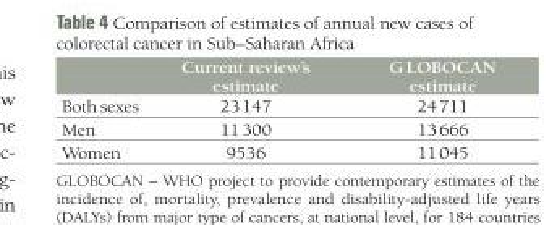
<table><thead><tr><td></td><td>Current review’s estimate</td><td>G LOBOCAN estimate</td></tr></thead><tbody><tr><td>Both sexes</td><td>23 147</td><td>24 711</td></tr><tr><td>Men</td><td>11 300</td><td>13 666</td></tr><tr><td>Women</td><td>9536</td><td>11 045</td></tr></tbody></table>